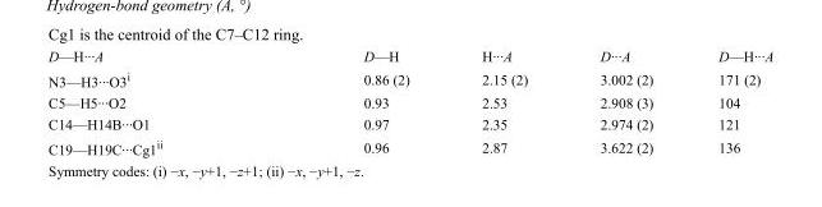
<table><tbody><tr><td>D—H···A</td><td>D—H</td><td>H···A</td><td>D···A</td><td>D—H···A</td></tr><tr><td>N3—H3···O3<sup>i</sup></td><td>0.86 (2)</td><td>2.15 (2)</td><td>3.002 (2)</td><td>171 (2)</td></tr><tr><td>C5—H5···O2</td><td>0.93</td><td>2.53</td><td>2.908 (3)</td><td>104</td></tr><tr><td>C14—H14B···O1</td><td>0.97</td><td>2.35</td><td>2.974 (2)</td><td>121</td></tr><tr><td>C19—H19C···Cg1<sup>ii</sup></td><td>0.96</td><td>2.87</td><td>3.622 (2)</td><td>136</td></tr></tbody></table>